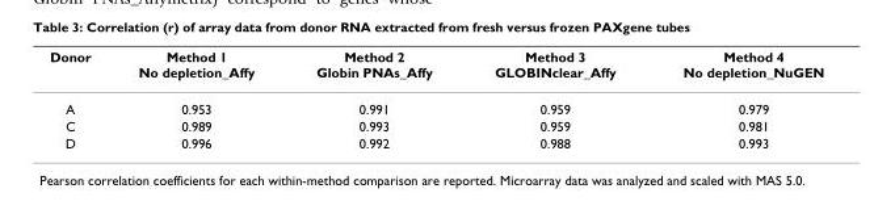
<table><thead><tr><td>Donor</td><td>Method 1 No depletion_Affy</td><td>Method 2 Globin PNAs_Affy</td><td>Method 3 GLOBINclear_Affy</td><td>Method 4 No depletion_NuGEN</td></tr></thead><tbody><tr><td>A</td><td>0.953</td><td>0.991</td><td>0.959</td><td>0.979</td></tr><tr><td>C</td><td>0.989</td><td>0.993</td><td>0.959</td><td>0.981</td></tr><tr><td>D</td><td>0.996</td><td>0.992</td><td>0.988</td><td>0.993</td></tr></tbody></table>